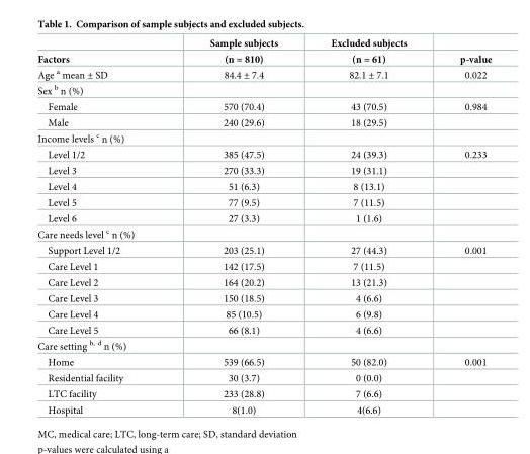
<table><thead><tr><td rowspan="2">Factors</td><td rowspan="2">Sample subjects (n = 810)</td><td rowspan="2">Excluded subjects (n = 61)</td><td rowspan="2">p-value</td></tr><tr></tr></thead><tbody><tr><td>Age <sup>a</sup> mean ± SD</td><td>84.4 ± 7.4</td><td>82.1 ± 7.1</td><td>0.022</td></tr><tr><td colspan="4">Sex <sup>b</sup> n (%)</td></tr><tr><td>Female</td><td>570 (70.4)</td><td>43 (70.5)</td><td>0.984</td></tr><tr><td>Male</td><td>240 (29.6)</td><td>18 (29.5)</td><td></td></tr><tr><td colspan="4">Income levels <sup>c</sup> n (%)</td></tr><tr><td>Level 1/2</td><td>385 (47.5)</td><td>24 (39.3)</td><td>0.233</td></tr><tr><td>Level 3</td><td>270 (33.3)</td><td>19 (31.1)</td><td></td></tr><tr><td>Level 4</td><td>51 (6.3)</td><td>8 (13.1)</td><td></td></tr><tr><td>Level 5</td><td>77 (9.5)</td><td>7 (11.5)</td><td></td></tr><tr><td>Level 6</td><td>27 (3.3)</td><td>1 (1.6)</td><td></td></tr><tr><td colspan="4">Care needs level <sup>c</sup> n (%)</td></tr><tr><td>Support Level 1/2</td><td>203 (25.1)</td><td>27 (44.3)</td><td>0.001</td></tr><tr><td>Care Level 1</td><td>142 (17.5)</td><td>7 (11.5)</td><td></td></tr><tr><td>Care Level 2</td><td>164 (20.2)</td><td>13 (21.3)</td><td></td></tr><tr><td>Care Level 3</td><td>150 (18.5)</td><td>4 (6.6)</td><td></td></tr><tr><td>Care Level 4</td><td>85 (10.5)</td><td>6 (9.8)</td><td></td></tr><tr><td>Care Level 5</td><td>66 (8.1)</td><td>4 (6.6)</td><td></td></tr><tr><td colspan="4">Care setting <sup>b, d</sup> n (%)</td></tr><tr><td>Home</td><td>539 (66.5)</td><td>50 (82.0)</td><td>0.001</td></tr><tr><td>Residential facility</td><td>30 (3.7)</td><td>0 (0.0)</td><td></td></tr><tr><td>LTC facility</td><td>233 (28.8)</td><td>7 (6.6)</td><td></td></tr><tr><td>Hospital</td><td>8(1.0)</td><td>4(6.6)</td><td></td></tr></tbody></table>